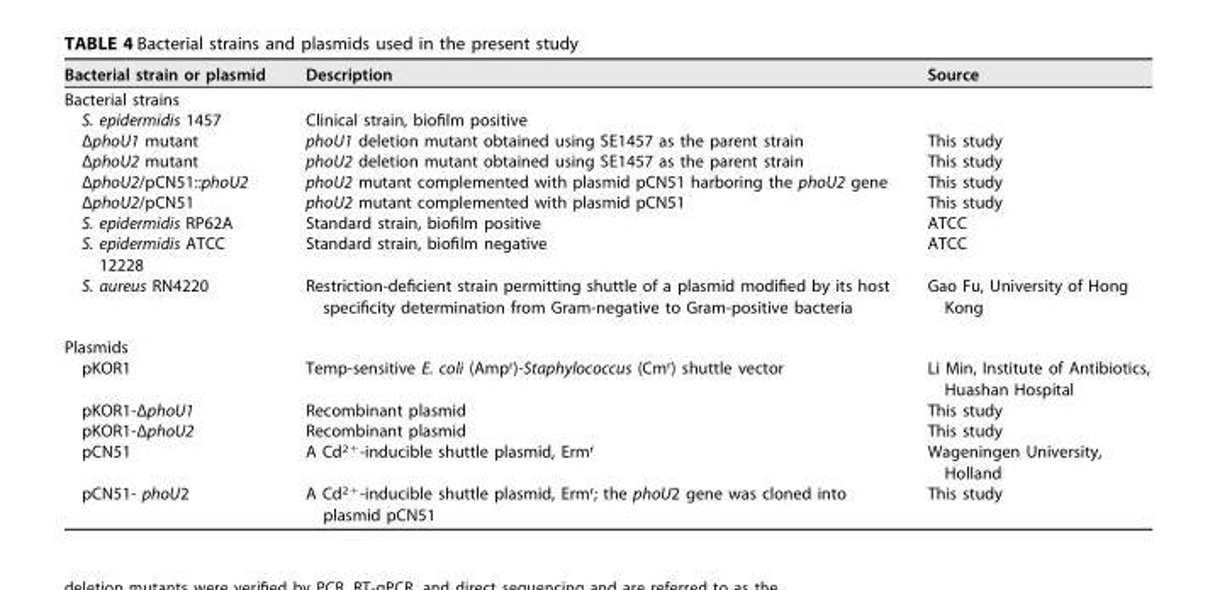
<table><thead><tr><td>Bacterial strain or plasmid</td><td>Description</td><td>Source</td></tr></thead><tbody><tr><td colspan="3">Bacterial strains</td></tr><tr><td>S. epidermidis 1457</td><td>Clinical strain, biofilm positive</td><td></td></tr><tr><td>ΔphoU1 mutant</td><td>phoU1 deletion mutant obtained using SE1457 as the parent strain</td><td>This study</td></tr><tr><td>ΔphoU2 mutant</td><td>phoU2 deletion mutant obtained using SE1457 as the parent strain</td><td>This study</td></tr><tr><td>ΔphoU2/pCN51::phoU2</td><td>phoU2 mutant complemented with plasmid pCN51 harboring the phoU2 gene</td><td>This study</td></tr><tr><td>ΔphoU2/pCN51</td><td>phoU2 mutant complemented with plasmid pCN51</td><td>This study</td></tr><tr><td>S. epidermidis RP62A</td><td>Standard strain, biofilm positive</td><td>ATCC</td></tr><tr><td>S. epidermidis ATCC 12228</td><td>Standard strain, biofilm negative</td><td>ATCC</td></tr><tr><td>S. aureus RN4220</td><td>Restriction-deficient strain permitting shuttle of a plasmid modified by its host specificity determination from Gram-negative to Gram-positive bacteria</td><td>Gao Fu, University of Hong Kong</td></tr><tr><td colspan="3">Plasmids</td></tr><tr><td>pKOR1</td><td>Temp-sensitive E. coli (Amp<sup>r</sup>)-Staphylococcus (Cm<sup>r</sup>) shuttle vector</td><td>Li Min, Institute of Antibiotics, Huashan Hospital</td></tr><tr><td>pKOR1-ΔphoU1</td><td>Recombinant plasmid</td><td>This study</td></tr><tr><td>pKOR1-ΔphoU2</td><td>Recombinant plasmid</td><td>This study</td></tr><tr><td>pCN51</td><td>A Cd<sup>2+</sup>-inducible shuttle plasmid, Erm<sup>r</sup></td><td>Wageningen University, Holland</td></tr><tr><td>pCN51- phoU2</td><td>A Cd<sup>2+</sup>-inducible shuttle plasmid, Erm<sup>r</sup>; the phoU2 gene was cloned into plasmid pCN51</td><td>This study</td></tr></tbody></table>